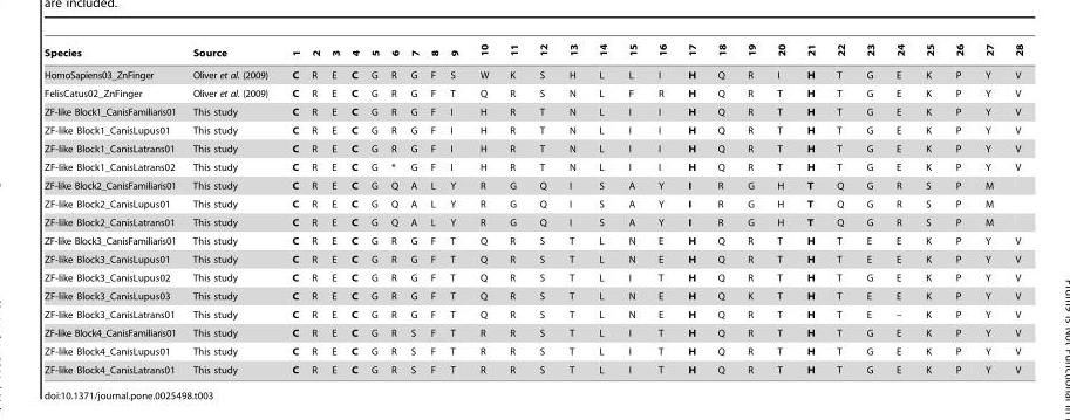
<table><thead><tr><td>Species</td><td>Source</td><td>1</td><td>2</td><td>3</td><td>4</td><td>5</td><td>6</td><td>7</td><td>8</td><td>9</td><td>10</td><td>11</td><td>12</td><td>13</td><td>14</td><td>15</td><td>16</td><td>17</td><td>18</td><td>19</td><td>20</td><td>21</td><td>22</td><td>23</td><td>24</td><td>25</td><td>26</td><td>27</td><td>28</td></tr></thead><tbody><tr><td>HomoSapiens03_ZnFinger</td><td>Oliver et al. (2009)</td><td>C</td><td>R</td><td>E</td><td>C</td><td>G</td><td>R</td><td>G</td><td>F</td><td>S</td><td>W</td><td>K</td><td>S</td><td>H</td><td>L</td><td>L</td><td>I</td><td>H</td><td>Q</td><td>R</td><td>I</td><td>H</td><td>T</td><td>G</td><td>E</td><td>K</td><td>P</td><td>Y</td><td>V</td></tr><tr><td>FelisCatus02_ZnFinger</td><td>Oliver et al. (2009)</td><td>C</td><td>R</td><td>E</td><td>C</td><td>G</td><td>R</td><td>G</td><td>F</td><td>T</td><td>Q</td><td>R</td><td>S</td><td>N</td><td>L</td><td>F</td><td>R</td><td>H</td><td>Q</td><td>R</td><td>T</td><td>H</td><td>T</td><td>G</td><td>E</td><td>K</td><td>P</td><td>Y</td><td>V</td></tr><tr><td>ZF-like Block1_CanisFamiliaris01</td><td>This study</td><td>C</td><td>R</td><td>E</td><td>C</td><td>G</td><td>R</td><td>G</td><td>F</td><td>I</td><td>H</td><td>R</td><td>T</td><td>N</td><td>L</td><td>I</td><td>I</td><td>H</td><td>Q</td><td>R</td><td>T</td><td>H</td><td>T</td><td>G</td><td>E</td><td>K</td><td>P</td><td>Y</td><td>V</td></tr><tr><td>ZF-like Block1_CanisLupus01</td><td>This study</td><td>C</td><td>R</td><td>E</td><td>C</td><td>G</td><td>R</td><td>G</td><td>F</td><td>I</td><td>H</td><td>R</td><td>T</td><td>N</td><td>L</td><td>I</td><td>I</td><td>H</td><td>Q</td><td>R</td><td>T</td><td>H</td><td>T</td><td>G</td><td>E</td><td>K</td><td>P</td><td>Y</td><td>V</td></tr><tr><td>ZF-like Block1_CanisLatrans01</td><td>This study</td><td>C</td><td>R</td><td>E</td><td>C</td><td>G</td><td>R</td><td>G</td><td>F</td><td>I</td><td>H</td><td>R</td><td>T</td><td>N</td><td>L</td><td>I</td><td>I</td><td>H</td><td>Q</td><td>R</td><td>T</td><td>H</td><td>T</td><td>G</td><td>E</td><td>K</td><td>P</td><td>Y</td><td>V</td></tr><tr><td>ZF-like Block1_CanisLatrans02</td><td>This study</td><td>C</td><td>R</td><td>E</td><td>C</td><td>G</td><td>*</td><td>G</td><td>F</td><td>I</td><td>H</td><td>R</td><td>T</td><td>N</td><td>L</td><td>I</td><td>I</td><td>H</td><td>Q</td><td>R</td><td>T</td><td>H</td><td>T</td><td>G</td><td>E</td><td>K</td><td>P</td><td>Y</td><td>V</td></tr><tr><td>ZF-like Block2_CanisFamiliaris01</td><td>This study</td><td>C</td><td>R</td><td>E</td><td>C</td><td>G</td><td>Q</td><td>A</td><td>L</td><td>Y</td><td>R</td><td>G</td><td>Q</td><td>I</td><td>S</td><td>A</td><td>Y</td><td>I</td><td>R</td><td>G</td><td>H</td><td>T</td><td>Q</td><td>G</td><td>R</td><td>S</td><td>P</td><td>M</td><td></td></tr><tr><td>ZF-like Block2_CanisLupus01</td><td>This study</td><td>C</td><td>R</td><td>E</td><td>C</td><td>G</td><td>Q</td><td>A</td><td>L</td><td>Y</td><td>R</td><td>G</td><td>Q</td><td>I</td><td>S</td><td>A</td><td>Y</td><td>I</td><td>R</td><td>G</td><td>H</td><td>T</td><td>Q</td><td>G</td><td>R</td><td>S</td><td>P</td><td>M</td><td></td></tr><tr><td>ZF-like Block2_CanisLatrans01</td><td>This study</td><td>C</td><td>R</td><td>E</td><td>C</td><td>G</td><td>Q</td><td>A</td><td>L</td><td>Y</td><td>R</td><td>G</td><td>Q</td><td>I</td><td>S</td><td>A</td><td>Y</td><td>I</td><td>R</td><td>G</td><td>H</td><td>T</td><td>Q</td><td>G</td><td>R</td><td>S</td><td>P</td><td>M</td><td></td></tr><tr><td>ZF-like Block3_CanisFamiliaris01</td><td>This study</td><td>C</td><td>R</td><td>E</td><td>C</td><td>G</td><td>R</td><td>G</td><td>F</td><td>T</td><td>Q</td><td>R</td><td>S</td><td>T</td><td>L</td><td>N</td><td>E</td><td>H</td><td>Q</td><td>R</td><td>T</td><td>H</td><td>T</td><td>E</td><td>E</td><td>K</td><td>P</td><td>Y</td><td>V</td></tr><tr><td>ZF-like Block3_CanisLupus01</td><td>This study</td><td>C</td><td>R</td><td>E</td><td>C</td><td>G</td><td>R</td><td>G</td><td>F</td><td>T</td><td>Q</td><td>R</td><td>S</td><td>T</td><td>L</td><td>N</td><td>E</td><td>H</td><td>Q</td><td>R</td><td>T</td><td>H</td><td>T</td><td>E</td><td>E</td><td>K</td><td>P</td><td>Y</td><td>V</td></tr><tr><td>ZF-like Block3_CanisLupus02</td><td>This study</td><td>C</td><td>R</td><td>E</td><td>C</td><td>G</td><td>R</td><td>G</td><td>F</td><td>T</td><td>Q</td><td>R</td><td>S</td><td>T</td><td>L</td><td>I</td><td>T</td><td>H</td><td>Q</td><td>R</td><td>T</td><td>H</td><td>T</td><td>G</td><td>E</td><td>K</td><td>P</td><td>Y</td><td>V</td></tr><tr><td>ZF-like Block3_CanisLupus03</td><td>This study</td><td>C</td><td>R</td><td>E</td><td>C</td><td>G</td><td>R</td><td>G</td><td>F</td><td>T</td><td>Q</td><td>R</td><td>S</td><td>T</td><td>L</td><td>N</td><td>E</td><td>H</td><td>Q</td><td>K</td><td>T</td><td>H</td><td>T</td><td>E</td><td>E</td><td>K</td><td>P</td><td>Y</td><td>V</td></tr><tr><td>ZF-like Block3_CanisLatrans01</td><td>This study</td><td>C</td><td>R</td><td>E</td><td>C</td><td>G</td><td>R</td><td>G</td><td>F</td><td>T</td><td>Q</td><td>R</td><td>S</td><td>T</td><td>L</td><td>N</td><td>E</td><td>H</td><td>Q</td><td>R</td><td>T</td><td>H</td><td>T</td><td>E</td><td>–</td><td>K</td><td>P</td><td>Y</td><td>V</td></tr><tr><td>ZF-like Block4_CanisFamiliaris01</td><td>This study</td><td>C</td><td>R</td><td>E</td><td>C</td><td>G</td><td>R</td><td>S</td><td>F</td><td>T</td><td>R</td><td>R</td><td>S</td><td>T</td><td>L</td><td>I</td><td>T</td><td>H</td><td>Q</td><td>R</td><td>T</td><td>H</td><td>T</td><td>G</td><td>E</td><td>K</td><td>P</td><td>Y</td><td>V</td></tr><tr><td>ZF-like Block4_CanisLupus01</td><td>This study</td><td>C</td><td>R</td><td>E</td><td>C</td><td>G</td><td>R</td><td>S</td><td>F</td><td>T</td><td>R</td><td>R</td><td>S</td><td>T</td><td>L</td><td>I</td><td>T</td><td>H</td><td>Q</td><td>R</td><td>T</td><td>H</td><td>T</td><td>G</td><td>E</td><td>K</td><td>P</td><td>Y</td><td>V</td></tr><tr><td>ZF-like Block4_CanisLatrans01</td><td>This study</td><td>C</td><td>R</td><td>E</td><td>C</td><td>G</td><td>R</td><td>S</td><td>F</td><td>T</td><td>R</td><td>R</td><td>S</td><td>T</td><td>L</td><td>I</td><td>T</td><td>H</td><td>Q</td><td>R</td><td>T</td><td>H</td><td>T</td><td>G</td><td>E</td><td>K</td><td>P</td><td>Y</td><td>V</td></tr></tbody></table>